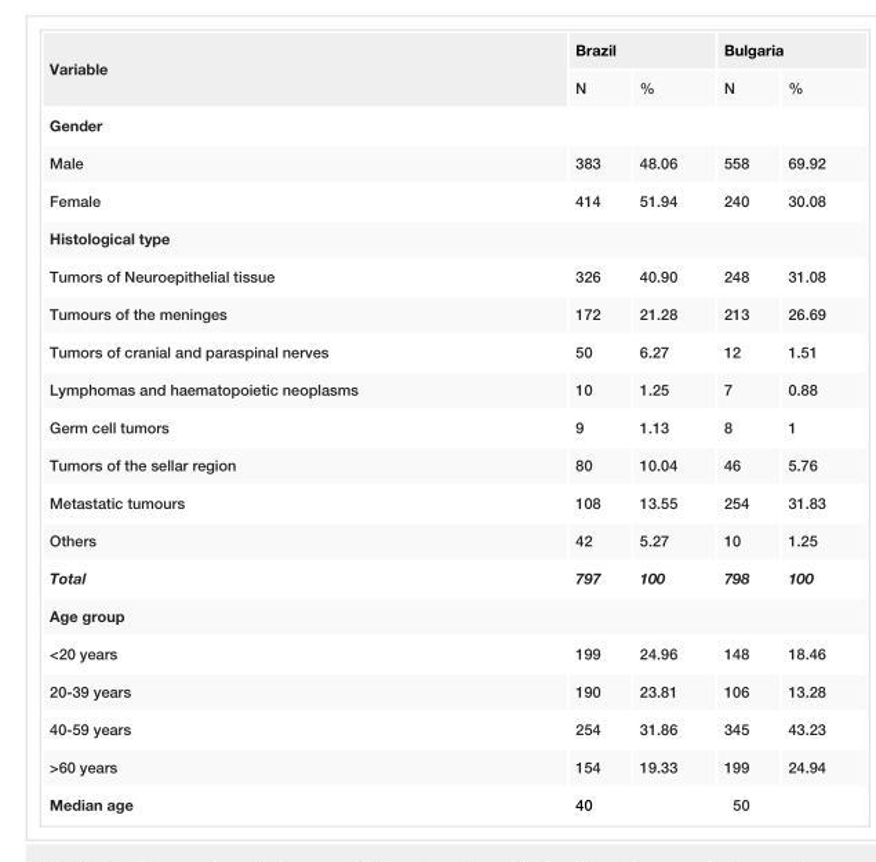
<table><tbody><tr><td rowspan="2">Variable</td><td colspan="2">Brazil</td><td colspan="2">Bulgaria</td></tr><tr><td>N</td><td>%</td><td>N</td><td>%</td></tr><tr><td colspan="5">Gender</td></tr><tr><td>Male</td><td>383</td><td>48.06</td><td>558</td><td>69.92</td></tr><tr><td>Female</td><td>414</td><td>51.94</td><td>240</td><td>30.08</td></tr><tr><td colspan="5">Histological type</td></tr><tr><td>Tumors of Neuroepithelial tissue</td><td>326</td><td>40.90</td><td>248</td><td>31.08</td></tr><tr><td>Tumours of the meninges</td><td>172</td><td>21.28</td><td>213</td><td>26.69</td></tr><tr><td>Tumors of cranial and paraspinal nerves</td><td>50</td><td>6.27</td><td>12</td><td>1.51</td></tr><tr><td>Lymphomas and haematopoietic neoplasms</td><td>10</td><td>1.25</td><td>7</td><td>0.88</td></tr><tr><td>Germ cell tumors</td><td>9</td><td>1.13</td><td>8</td><td>1</td></tr><tr><td>Tumors of the sellar region</td><td>80</td><td>10.04</td><td>46</td><td>5.76</td></tr><tr><td>Metastatic tumours</td><td>108</td><td>13.55</td><td>254</td><td>31.83</td></tr><tr><td>Others</td><td>42</td><td>5.27</td><td>10</td><td>1.25</td></tr><tr><td>Total</td><td>797</td><td>100</td><td>798</td><td>100</td></tr><tr><td colspan="5">Age group</td></tr><tr><td>&lt;20 years</td><td>199</td><td>24.96</td><td>148</td><td>18.46</td></tr><tr><td>20-39 years</td><td>190</td><td>23.81</td><td>106</td><td>13.28</td></tr><tr><td>40-59 years</td><td>254</td><td>31.86</td><td>345</td><td>43.23</td></tr><tr><td>&gt;60 years</td><td>154</td><td>19.33</td><td>199</td><td>24.94</td></tr><tr><td>Median age</td><td colspan="2">40</td><td colspan="2">50</td></tr></tbody></table>